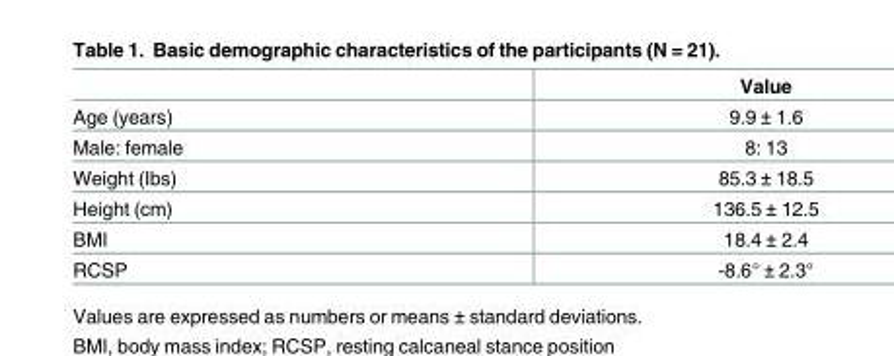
<table><thead><tr><td></td><td>Value</td></tr></thead><tbody><tr><td>Age (years)</td><td>9.9 ± 1.6</td></tr><tr><td>Male: female</td><td>8: 13</td></tr><tr><td>Weight (Ibs)</td><td>85.3 ± 18.5</td></tr><tr><td>Height (cm)</td><td>136.5 ± 12.5</td></tr><tr><td>BMI</td><td>18.4 ± 2.4</td></tr><tr><td>RCSP</td><td>-8.6° ± 2.3°</td></tr></tbody></table>